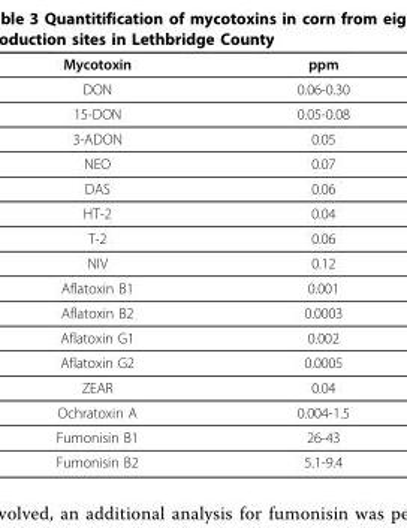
<table><thead><tr><td>Mycotoxin</td><td>ppm</td></tr></thead><tbody><tr><td>DON</td><td>0.06-0.30</td></tr><tr><td>15-DON</td><td>0.05-0.08</td></tr><tr><td>3-ADON</td><td>0.05</td></tr><tr><td>NEO</td><td>0.07</td></tr><tr><td>DAS</td><td>0.06</td></tr><tr><td>HT-2</td><td>0.04</td></tr><tr><td>T-2</td><td>0.06</td></tr><tr><td>NIV</td><td>0.12</td></tr><tr><td>Aflatoxin B1</td><td>0.001</td></tr><tr><td>Aflatoxin B2</td><td>0.0003</td></tr><tr><td>Aflatoxin G1</td><td>0.002</td></tr><tr><td>Aflatoxin G2</td><td>0.0005</td></tr><tr><td>ZEAR</td><td>0.04</td></tr><tr><td>Ochratoxin A</td><td>0.004-1.5</td></tr><tr><td>Fumonisin B1</td><td>26-43</td></tr><tr><td>Fumonisin B2</td><td>5.1-9.4</td></tr></tbody></table>